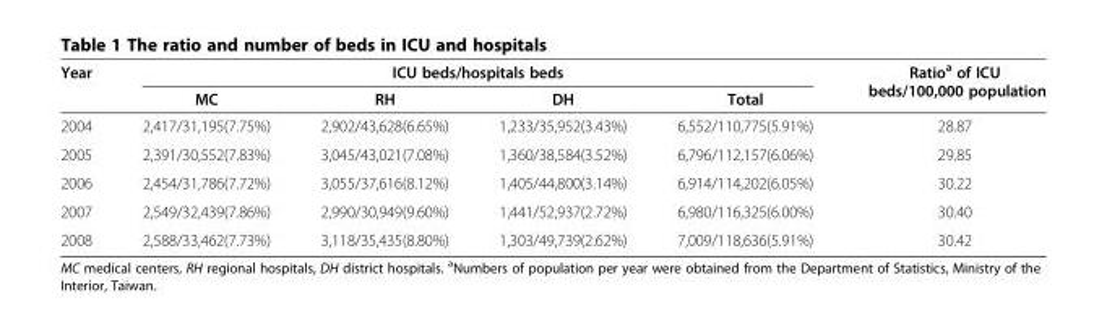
<table><thead><tr><td rowspan="2">Year</td><td colspan="4">ICU beds/hospitals beds</td><td rowspan="2">Ratio<sup>a</sup> of ICU beds/100,000 population</td></tr><tr><td>MC</td><td>RH</td><td>DH</td><td>Total</td></tr></thead><tbody><tr><td>2004</td><td>2,417/31,195(7.75%)</td><td>2,902/43,628(6.65%)</td><td>1,233/35,952(3.43%)</td><td>6,552/110,775(5.91%)</td><td>28.87</td></tr><tr><td>2005</td><td>2,391/30,552(7.83%)</td><td>3,045/43,021(7.08%)</td><td>1,360/38,584(3.52%)</td><td>6,796/112,157(6.06%)</td><td>29.85</td></tr><tr><td>2006</td><td>2,454/31,786(7.72%)</td><td>3,055/37,616(8.12%)</td><td>1,405/44,800(3.14%)</td><td>6,914/114,202(6.05%)</td><td>30.22</td></tr><tr><td>2007</td><td>2,549/32,439(7.86%)</td><td>2,990/30,949(9.60%)</td><td>1,441/52,937(2.72%)</td><td>6,980/116,325(6.00%)</td><td>30.40</td></tr><tr><td>2008</td><td>2,588/33,462(7.73%)</td><td>3,118/35,435(8.80%)</td><td>1,303/49,739(2.62%)</td><td>7,009/118,636(5.91%)</td><td>30.42</td></tr></tbody></table>